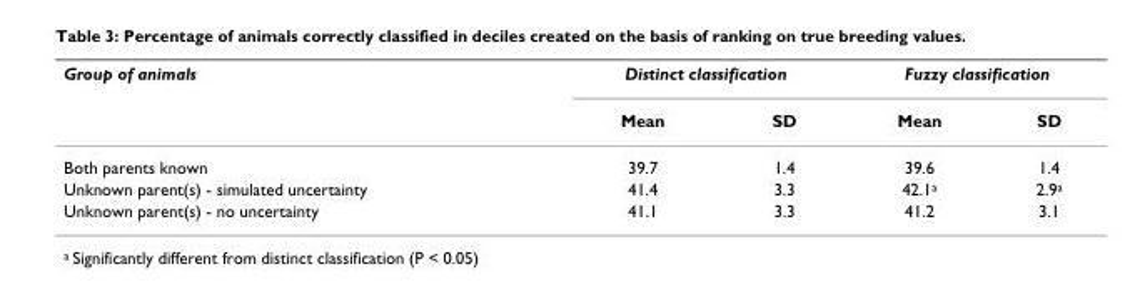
<table><thead><tr><td rowspan="2">Group of animals</td><td colspan="2">Distinct classification</td><td colspan="2">Fuzzy classification</td></tr><tr><td>Mean</td><td>SD</td><td>Mean</td><td>SD</td></tr></thead><tbody><tr><td>Both parents known</td><td>39.7</td><td>1.4</td><td>39.6</td><td>1.4</td></tr><tr><td>Unknown parent(s) - simulated uncertainty</td><td>41.4</td><td>3.3</td><td>42.1<sup>a</sup></td><td>2.9<sup>a</sup></td></tr><tr><td>Unknown parent(s) - no uncertainty</td><td>41.1</td><td>3.3</td><td>41.2</td><td>3.1</td></tr></tbody></table>